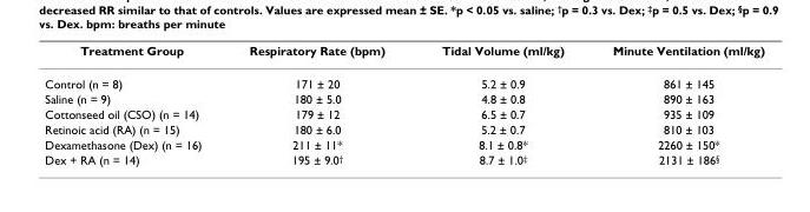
<table><thead><tr><td>Treatment Group</td><td>Respiratory Rate (bpm)</td><td>Tidal Volume (ml/kg)</td><td>Minute Ventilation (ml/kg)</td></tr></thead><tbody><tr><td>Control (n = 8)</td><td>171 ± 20</td><td>5.2 ± 0.9</td><td>861 ± 145</td></tr><tr><td>Saline (n = 9)</td><td>180 ± 5.0</td><td>4.8 ± 0.8</td><td>890 ± 163</td></tr><tr><td>Cottonseed oil (CSO) (n = 14)</td><td>179 ± 12</td><td>6.5 ± 0.7</td><td>935 ± 109</td></tr><tr><td>Retinoic acid (RA) (n = 15)</td><td>180 ± 6.0</td><td>5.2 ± 0.7</td><td>810 ± 103</td></tr><tr><td>Dexamethasone (Dex) (n = 16)</td><td>211 ± 11*</td><td>8.1 ± 0.8*</td><td>2260 ± 150*</td></tr><tr><td>Dex + RA (n = 14)</td><td>195 ± 9.0<sup>†</sup></td><td>8.7 ± 1.0<sup>‡</sup></td><td>2131 ± 186<sup>§</sup></td></tr></tbody></table>